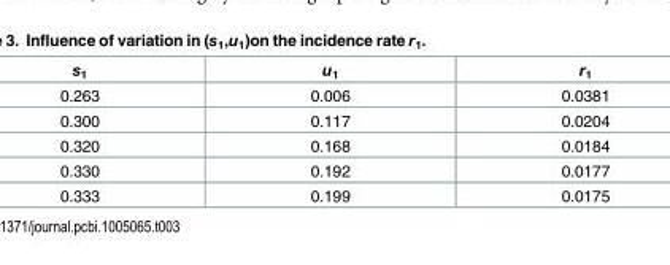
<table><thead><tr><td>s<sub>1</sub></td><td>u<sub>1</sub></td><td>r<sub>1</sub></td></tr></thead><tbody><tr><td>0.263</td><td>0.006</td><td>0.0381</td></tr><tr><td>0.300</td><td>0.117</td><td>0.0204</td></tr><tr><td>0.320</td><td>0.168</td><td>0.0184</td></tr><tr><td>0.330</td><td>0.192</td><td>0.0177</td></tr><tr><td>0.333</td><td>0.199</td><td>0.0175</td></tr></tbody></table>